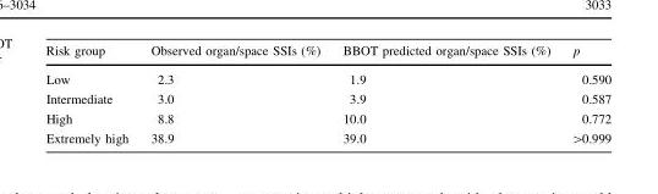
<table><thead><tr><td>Risk group</td><td>Observed organ/space SSIs (%)</td><td>BBOT predicted organ/space SSIs (%)</td><td>p</td></tr></thead><tbody><tr><td>Low</td><td>2.3</td><td>1.9</td><td>0.590</td></tr><tr><td>Intermediate</td><td>3.0</td><td>3.9</td><td>0.587</td></tr><tr><td>High</td><td>8.8</td><td>10.0</td><td>0.772</td></tr><tr><td>Extremely high</td><td>38.9</td><td>39.0</td><td>&gt;0.999</td></tr></tbody></table>